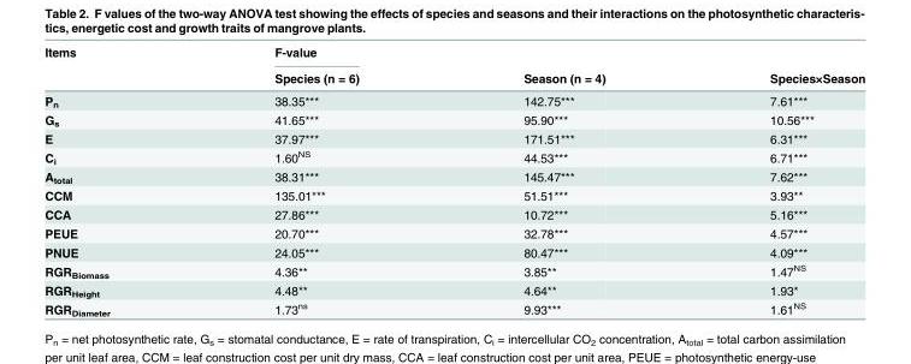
<table><thead><tr><td rowspan="2">Items</td><td rowspan="2">F-value Species (n = 6)</td><td rowspan="2">Season (n = 4)</td><td rowspan="2">Species×Season</td></tr><tr></tr></thead><tbody><tr><td>P<sub>n</sub></td><td>38.35***</td><td>142.75***</td><td>7.61***</td></tr><tr><td>G<sub>s</sub></td><td>41.65***</td><td>95.90***</td><td>10.56***</td></tr><tr><td>E</td><td>37.97***</td><td>171.51***</td><td>6.31***</td></tr><tr><td>C<sub>i</sub></td><td>1.60<sup>NS</sup></td><td>44.53***</td><td>6.71***</td></tr><tr><td>A<sub>total</sub></td><td>38.31***</td><td>145.47***</td><td>7.62***</td></tr><tr><td>CCM</td><td>135.01***</td><td>51.51***</td><td>3.93**</td></tr><tr><td>CCA</td><td>27.86***</td><td>10.72***</td><td>5.16***</td></tr><tr><td>PEUE</td><td>20.70***</td><td>32.78***</td><td>4.57***</td></tr><tr><td>PNUE</td><td>24.05***</td><td>80.47***</td><td>4.09***</td></tr><tr><td>RGR<sub>Biomass</sub></td><td>4.36**</td><td>3.85**</td><td>1.47<sup>NS</sup></td></tr><tr><td>RGR<sub>Height</sub></td><td>4.48**</td><td>4.64**</td><td>1.93*</td></tr><tr><td>RGR<sub>Diameter</sub></td><td>1.73<sup>ns</sup></td><td>9.93***</td><td>1.61<sup>NS</sup></td></tr></tbody></table>